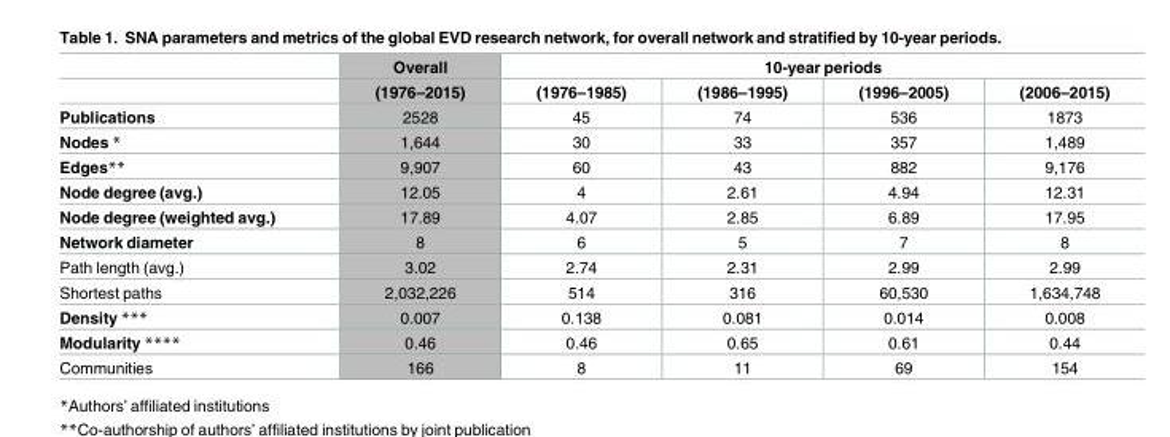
<table><thead><tr><td rowspan="2"></td><td rowspan="2">Overall (1976–2015)</td><td colspan="4">10-year periods</td></tr><tr><td>(1976–1985)</td><td>(1986–1995)</td><td>(1996–2005)</td><td>(2006–2015)</td></tr></thead><tbody><tr><td>Publications</td><td>2528</td><td>45</td><td>74</td><td>536</td><td>1873</td></tr><tr><td>Nodes *</td><td>1,644</td><td>30</td><td>33</td><td>357</td><td>1,489</td></tr><tr><td>Edges**</td><td>9,907</td><td>60</td><td>43</td><td>882</td><td>9,176</td></tr><tr><td>Node degree (avg.)</td><td>12.05</td><td>4</td><td>2.61</td><td>4.94</td><td>12.31</td></tr><tr><td>Node degree (weighted avg.)</td><td>17.89</td><td>4.07</td><td>2.85</td><td>6.89</td><td>17.95</td></tr><tr><td>Network diameter</td><td>8</td><td>6</td><td>5</td><td>7</td><td>8</td></tr><tr><td>Path length (avg.)</td><td>3.02</td><td>2.74</td><td>2.31</td><td>2.99</td><td>2.99</td></tr><tr><td>Shortest paths</td><td>2,032,226</td><td>514</td><td>316</td><td>60,530</td><td>1,634,748</td></tr><tr><td>Density ***</td><td>0.007</td><td>0.138</td><td>0.081</td><td>0.014</td><td>0.008</td></tr><tr><td>Modularity ****</td><td>0.46</td><td>0.46</td><td>0.65</td><td>0.61</td><td>0.44</td></tr><tr><td>Communities</td><td>166</td><td>8</td><td>11</td><td>69</td><td>154</td></tr></tbody></table>